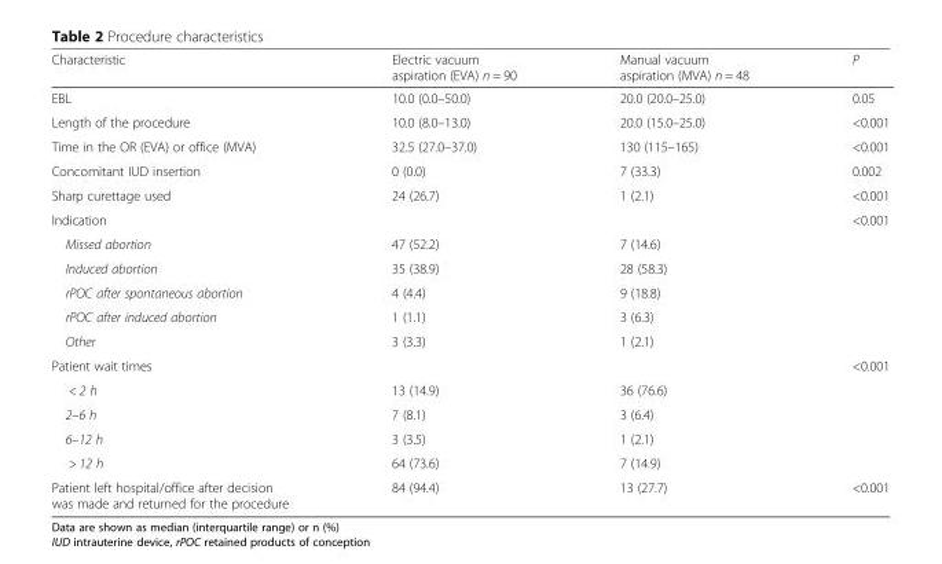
<table><thead><tr><td>Characteristic</td><td>Electric vacuum aspiration (EVA) n = 90</td><td>Manual vacuum aspiration (MVA) n = 48</td><td>P</td></tr></thead><tbody><tr><td>EBL</td><td>10.0 (0.0–50.0)</td><td>20.0 (20.0–25.0)</td><td>0.05</td></tr><tr><td>Length of the procedure</td><td>10.0 (8.0–13.0)</td><td>20.0 (15.0–25.0)</td><td>&lt;0.001</td></tr><tr><td>Time in the OR (EVA) or office (MVA)</td><td>32.5 (27.0–37.0)</td><td>130 (115–165)</td><td>&lt;0.001</td></tr><tr><td>Concomitant IUD insertion</td><td>0 (0.0)</td><td>7 (33.3)</td><td>0.002</td></tr><tr><td>Sharp curettage used</td><td>24 (26.7)</td><td>1 (2.1)</td><td>&lt;0.001</td></tr><tr><td colspan="3">Indication</td><td>&lt;0.001</td></tr><tr><td>Missed abortion</td><td>47 (52.2)</td><td>7 (14.6)</td><td></td></tr><tr><td>Induced abortion</td><td>35 (38.9)</td><td>28 (58.3)</td><td></td></tr><tr><td>rPOC after spontaneous abortion</td><td>4 (4.4)</td><td>9 (18.8)</td><td></td></tr><tr><td>rPOC after induced abortion</td><td>1 (1.1)</td><td>3 (6.3)</td><td></td></tr><tr><td>Other</td><td>3 (3.3)</td><td>1 (2.1)</td><td></td></tr><tr><td colspan="3">Patient wait times</td><td>&lt;0.001</td></tr><tr><td>&lt; 2 h</td><td>13 (14.9)</td><td>36 (76.6)</td><td></td></tr><tr><td>2–6 h</td><td>7 (8.1)</td><td>3 (6.4)</td><td></td></tr><tr><td>6–12 h</td><td>3 (3.5)</td><td>1 (2.1)</td><td></td></tr><tr><td>&gt; 12 h</td><td>64 (73.6)</td><td>7 (14.9)</td><td></td></tr><tr><td>Patient left hospital/office after decision was made and returned for the procedure</td><td>84 (94.4)</td><td>13 (27.7)</td><td>&lt;0.001</td></tr></tbody></table>